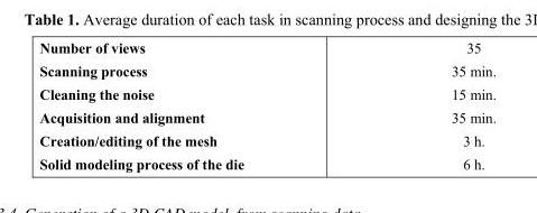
<table><tbody><tr><td>Number of views</td><td>35</td></tr><tr><td>Scanning process</td><td>35 min.</td></tr><tr><td>Cleaning the noise</td><td>15 min.</td></tr><tr><td>Acquisition and alignment</td><td>35 min.</td></tr><tr><td>Creation/editing of the mesh</td><td>3 h.</td></tr><tr><td>Solid modeling process of the die</td><td>6 h.</td></tr></tbody></table>